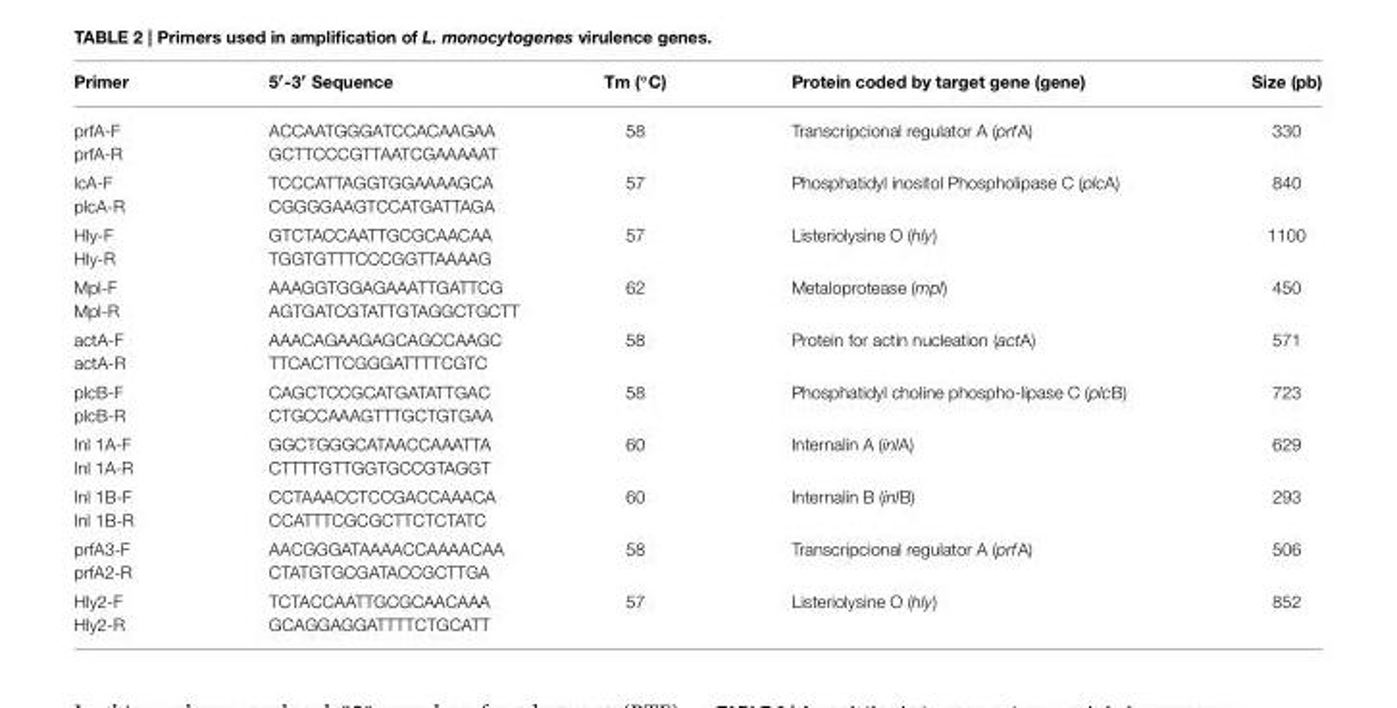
<table><thead><tr><td>Primer</td><td>5′-3′ Sequence</td><td>Tm (◦C)</td><td>Protein coded by target gene (gene)</td><td>Size (pb)</td></tr></thead><tbody><tr><td>prfA-F prfA-R</td><td>ACCAATGGGATCCACAAGAA GCTTCCCGTTAATCGAAAAAT</td><td>58</td><td>Transcripcional regulator A (prfA)</td><td>330</td></tr><tr><td>lcA-F plcA-R</td><td>TCCCATTAGGTGGAAAAGCA CGGGGAAGTCCATGATTAGA</td><td>57</td><td>Phosphatidyl inositol Phospholipase C (plcA)</td><td>840</td></tr><tr><td>Hly-F Hly-R</td><td>GTCTACCAATTGCGCAACAA TGGTGTTTCCCGGTTAAAAG</td><td>57</td><td>Listeriolysine O (hly)</td><td>1100</td></tr><tr><td>Mpl-F Mpl-R</td><td>AAAGGTGGAGAAATTGATTCG AGTGATCGTATTGTAGGCTGCTT</td><td>62</td><td>Metaloprotease (mpl)</td><td>450</td></tr><tr><td>actA-F actA-R</td><td>AAACAGAAGAGCAGCCAAGC TTCACTTCGGGATTTTCGTC</td><td>58</td><td>Protein for actin nucleation (actA)</td><td>571</td></tr><tr><td>plcB-F plcB-R</td><td>CAGCTCCGCATGATATTGAC CTGCCAAAGTTTGCTGTGAA</td><td>58</td><td>Phosphatidyl choline phospho-lipase C (plcB)</td><td>723</td></tr><tr><td>Inl 1A-F Inl 1A-R</td><td>GGCTGGGCATAACCAAATTA CTTTTGTTGGTGCCGTAGGT</td><td>60</td><td>Internalin A (inlA)</td><td>629</td></tr><tr><td>Inl 1B-F Inl 1B-R</td><td>CCTAAACCTCCGACCAAACA CCATTTCGCGCTTCTCTATC</td><td>60</td><td>Internalin B (inlB)</td><td>293</td></tr><tr><td>prfA3-F prfA2-R</td><td>AACGGGATAAAACCAAAACAA CTATGTGCGATACCGCTTGA</td><td>58</td><td>Transcripcional regulator A (prfA)</td><td>506</td></tr><tr><td>Hly2-F Hly2-R</td><td>TCTACCAATTGCGCAACAAA GCAGGAGGATTTTCTGCATT</td><td>57</td><td>Listeriolysine O (hly)</td><td>852</td></tr></tbody></table>